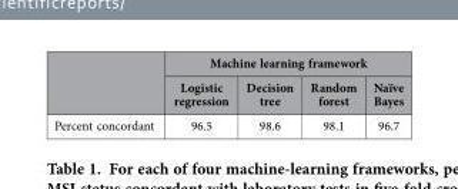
<table><thead><tr><td rowspan="2"></td><td colspan="4">Machine learning framework</td></tr><tr><td>Logistic regression</td><td>Decision tree</td><td>Random forest</td><td>Naïve Bayes</td></tr></thead><tbody><tr><td>Percent concordant</td><td>96.5</td><td>98.6</td><td>98.1</td><td>96.7</td></tr></tbody></table>